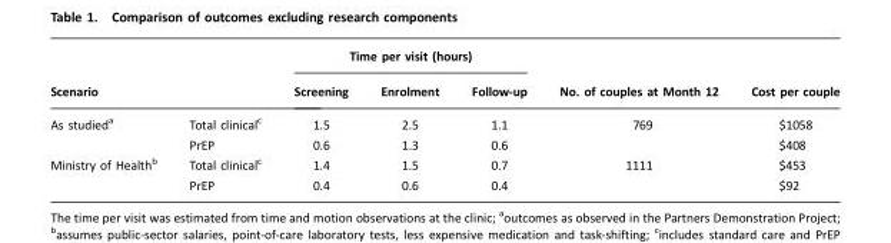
<table><thead><tr><td></td><td></td><td colspan="3">Time per visit (hours)</td><td rowspan="2">No. of couples at Month 12</td><td rowspan="2">Cost per couple</td></tr><tr><td colspan="2">Scenario</td><td>Screening</td><td>Enrolment</td><td>Follow-up</td></tr></thead><tbody><tr><td rowspan="2">As studieda</td><td>Total clinicalc</td><td>1.5</td><td>2.5</td><td>1.1</td><td>769</td><td>$1058</td></tr><tr><td>PrEP</td><td>0.6</td><td>1.3</td><td>0.6</td><td></td><td>$408</td></tr><tr><td rowspan="2">Ministry of Healthb</td><td>Total clinicalc</td><td>1.4</td><td>1.5</td><td>0.7</td><td>1111</td><td>$453</td></tr><tr><td>PrEP</td><td>0.4</td><td>0.6</td><td>0.4</td><td></td><td>$92</td></tr></tbody></table>